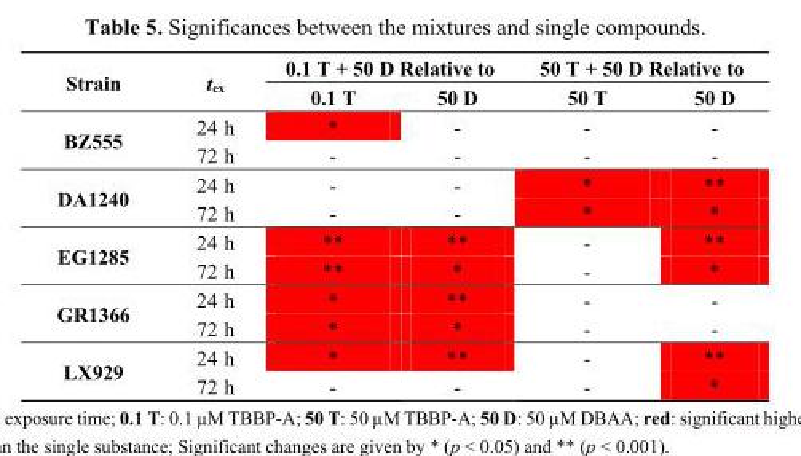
<table><thead><tr><td rowspan="2">Strain</td><td rowspan="2">t<sub>ex</sub></td><td colspan="2">0.1 T + 50 D Relative to</td><td colspan="2">50 T + 50 D Relative to</td></tr><tr><td>0.1 T</td><td>50 D</td><td>50 T</td><td>50 D</td></tr></thead><tbody><tr><td rowspan="2">BZ555</td><td>24 h</td><td>*</td><td>-</td><td>-</td><td>-</td></tr><tr><td>72 h</td><td>-</td><td>-</td><td>-</td><td>-</td></tr><tr><td rowspan="2">DA1240</td><td>24 h</td><td>-</td><td>-</td><td>*</td><td>**</td></tr><tr><td>72 h</td><td>-</td><td>-</td><td>*</td><td>*</td></tr><tr><td rowspan="2">EG1285</td><td>24 h</td><td>**</td><td>**</td><td>-</td><td>**</td></tr><tr><td>72 h</td><td>**</td><td>*</td><td>-</td><td>*</td></tr><tr><td rowspan="2">GR1366</td><td>24 h</td><td>*</td><td>**</td><td>-</td><td>-</td></tr><tr><td>72 h</td><td>*</td><td>*</td><td>-</td><td>-</td></tr><tr><td rowspan="2">LX929</td><td>24 h</td><td>*</td><td>**</td><td>-</td><td>**</td></tr><tr><td>72 h</td><td>-</td><td>-</td><td>-</td><td>*</td></tr></tbody></table>